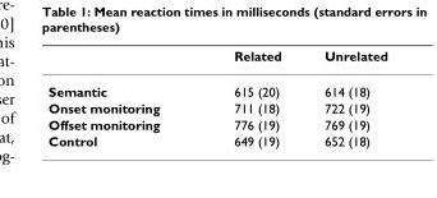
<table><thead><tr><td></td><td>Related</td><td>Unrelated</td></tr></thead><tbody><tr><td>Semantic</td><td>615 (20)</td><td>614 (18)</td></tr><tr><td>Onset monitoring</td><td>711 (18)</td><td>722 (19)</td></tr><tr><td>Offset monitoring</td><td>776 (19)</td><td>769 (19)</td></tr><tr><td>Control</td><td>649 (19)</td><td>652 (18)</td></tr></tbody></table>